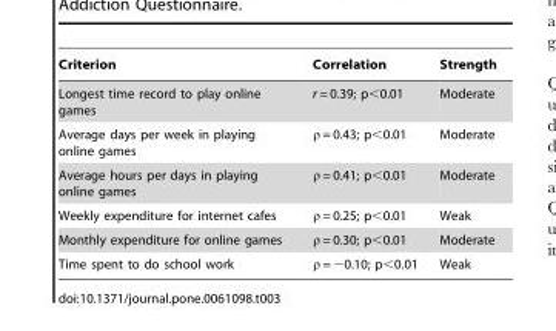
<table><thead><tr><td>Criterion</td><td>Correlation</td><td>Strength</td></tr></thead><tbody><tr><td>Longest time record to play online games</td><td>r = 0.39; p&lt;0.01</td><td>Moderate</td></tr><tr><td>Average days per week in playing online games</td><td>ρ = 0.43; p&lt;0.01</td><td>Moderate</td></tr><tr><td>Average hours per days in playing online games</td><td>ρ = 0.41; p&lt;0.01</td><td>Moderate</td></tr><tr><td>Weekly expenditure for internet cafes</td><td>ρ = 0.25; p&lt;0.01</td><td>Weak</td></tr><tr><td>Monthly expenditure for online games</td><td>ρ = 0.30; p&lt;0.01</td><td>Moderate</td></tr><tr><td>Time spent to do school work</td><td>ρ = −0.10; p&lt;0.01</td><td>Weak</td></tr></tbody></table>